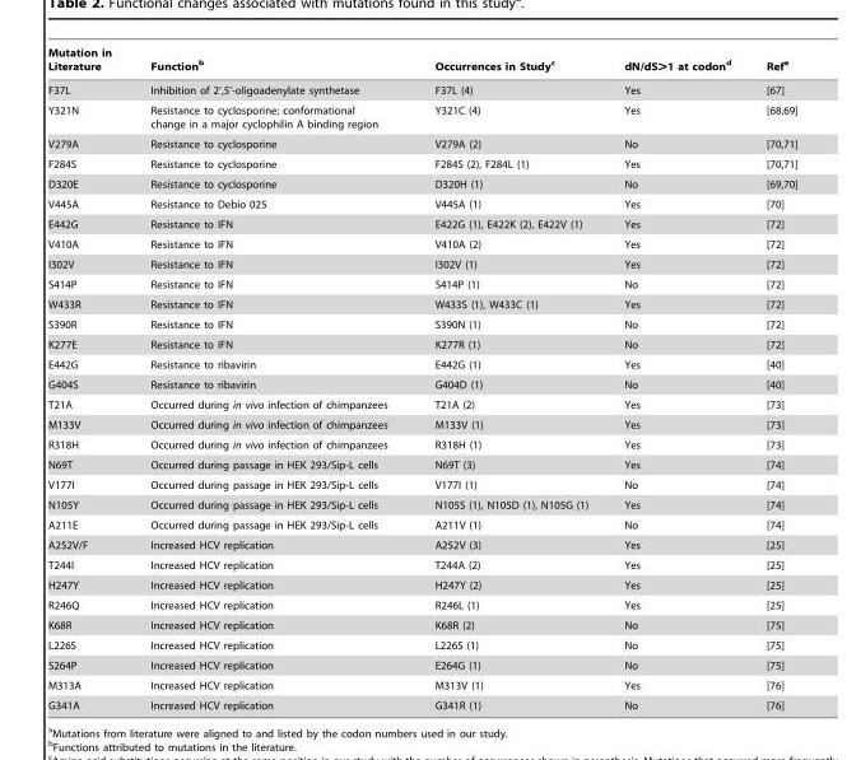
<table><thead><tr><td>Mutation in Literature</td><td>Function<sup>b</sup></td><td>Occurrences in Study<sup>c</sup></td><td>dN/dS&gt;1 at codon<sup>d</sup></td><td>Ref<sup>e</sup></td></tr></thead><tbody><tr><td>F37L</td><td>Inhibition of 2’,5’-oligoadenylate synthetase</td><td>F37L (4)</td><td>Yes</td><td>[67]</td></tr><tr><td>Y321N</td><td>Resistance to cyclosporine; conformational change in a major cyclophilin A binding region</td><td>Y321C (4)</td><td>Yes</td><td>[68,69]</td></tr><tr><td>V279A</td><td>Resistance to cyclosporine</td><td>V279A (2)</td><td>No</td><td>[70,71]</td></tr><tr><td>F284S</td><td>Resistance to cyclosporine</td><td>F284S (2), F284L (1)</td><td>Yes</td><td>[70,71]</td></tr><tr><td>D320E</td><td>Resistance to cyclosporine</td><td>D320H (1)</td><td>No</td><td>[69,70]</td></tr><tr><td>V445A</td><td>Resistance to Debio 025</td><td>V445A (1)</td><td>Yes</td><td>[70]</td></tr><tr><td>E442G</td><td>Resistance to IFN</td><td>E422G (1), E422K (2), E422V (1)</td><td>Yes</td><td>[72]</td></tr><tr><td>V410A</td><td>Resistance to IFN</td><td>V410A (2)</td><td>Yes</td><td>[72]</td></tr><tr><td>I302V</td><td>Resistance to IFN</td><td>I302V (1)</td><td>Yes</td><td>[72]</td></tr><tr><td>S414P</td><td>Resistance to IFN</td><td>S414P (1)</td><td>No</td><td>[72]</td></tr><tr><td>W433R</td><td>Resistance to IFN</td><td>W433S (1), W433C (1)</td><td>Yes</td><td>[72]</td></tr><tr><td>S390R</td><td>Resistance to IFN</td><td>S390N (1)</td><td>No</td><td>[72]</td></tr><tr><td>K277E</td><td>Resistance to IFN</td><td>K277R (1)</td><td>No</td><td>[72]</td></tr><tr><td>E442G</td><td>Resistance to ribavirin</td><td>E442G (1)</td><td>Yes</td><td>[40]</td></tr><tr><td>G404S</td><td>Resistance to ribavirin</td><td>G404D (1)</td><td>No</td><td>[40]</td></tr><tr><td>T21A</td><td>Occurred during in vivo infection of chimpanzees</td><td>T21A (2)</td><td>Yes</td><td>[73]</td></tr><tr><td>M133V</td><td>Occurred during in vivo infection of chimpanzees</td><td>M133V (1)</td><td>Yes</td><td>[73]</td></tr><tr><td>R318H</td><td>Occurred during in vivo infection of chimpanzees</td><td>R318H (1)</td><td>Yes</td><td>[73]</td></tr><tr><td>N69T</td><td>Occurred during passage in HEK 293/Sip-L cells</td><td>N69T (3)</td><td>Yes</td><td>[74]</td></tr><tr><td>V177I</td><td>Occurred during passage in HEK 293/Sip-L cells</td><td>V177I (1)</td><td>No</td><td>[74]</td></tr><tr><td>N105Y</td><td>Occurred during passage in HEK 293/Sip-L cells</td><td>N105S (1), N105D (1), N105G (1)</td><td>Yes</td><td>[74]</td></tr><tr><td>A211E</td><td>Occurred during passage in HEK 293/Sip-L cells</td><td>A211V (1)</td><td>No</td><td>[74]</td></tr><tr><td>A252V/F</td><td>Increased HCV replication</td><td>A252V (3)</td><td>Yes</td><td>[25]</td></tr><tr><td>T244I</td><td>Increased HCV replication</td><td>T244A (2)</td><td>Yes</td><td>[25]</td></tr><tr><td>H247Y</td><td>Increased HCV replication</td><td>H247Y (2)</td><td>Yes</td><td>[25]</td></tr><tr><td>R246Q</td><td>Increased HCV replication</td><td>R246L (1)</td><td>Yes</td><td>[25]</td></tr><tr><td>K68R</td><td>Increased HCV replication</td><td>K68R (2)</td><td>No</td><td>[75]</td></tr><tr><td>L226S</td><td>Increased HCV replication</td><td>L226S (1)</td><td>No</td><td>[75]</td></tr><tr><td>S264P</td><td>Increased HCV replication</td><td>E264G (1)</td><td>No</td><td>[75]</td></tr><tr><td>M313A</td><td>Increased HCV replication</td><td>M313V (1)</td><td>Yes</td><td>[76]</td></tr><tr><td>G341A</td><td>Increased HCV replication</td><td>G341R (1)</td><td>No</td><td>[76]</td></tr></tbody></table>